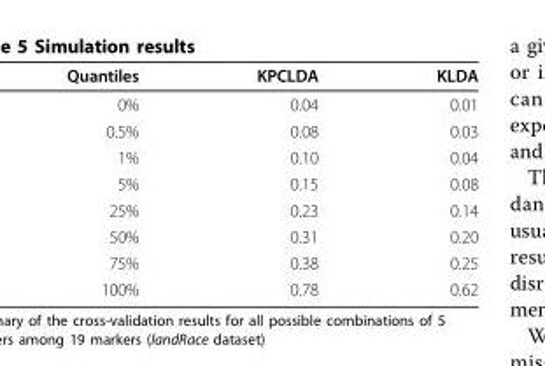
<table><thead><tr><td>Quantiles</td><td>KPCLDA</td><td>KLDA</td></tr></thead><tbody><tr><td>0%</td><td>0.04</td><td>0.01</td></tr><tr><td>0.5%</td><td>0.08</td><td>0.03</td></tr><tr><td>1%</td><td>0.10</td><td>0.04</td></tr><tr><td>5%</td><td>0.15</td><td>0.08</td></tr><tr><td>25%</td><td>0.23</td><td>0.14</td></tr><tr><td>50%</td><td>0.31</td><td>0.20</td></tr><tr><td>75%</td><td>0.38</td><td>0.25</td></tr><tr><td>100%</td><td>0.78</td><td>0.62</td></tr></tbody></table>